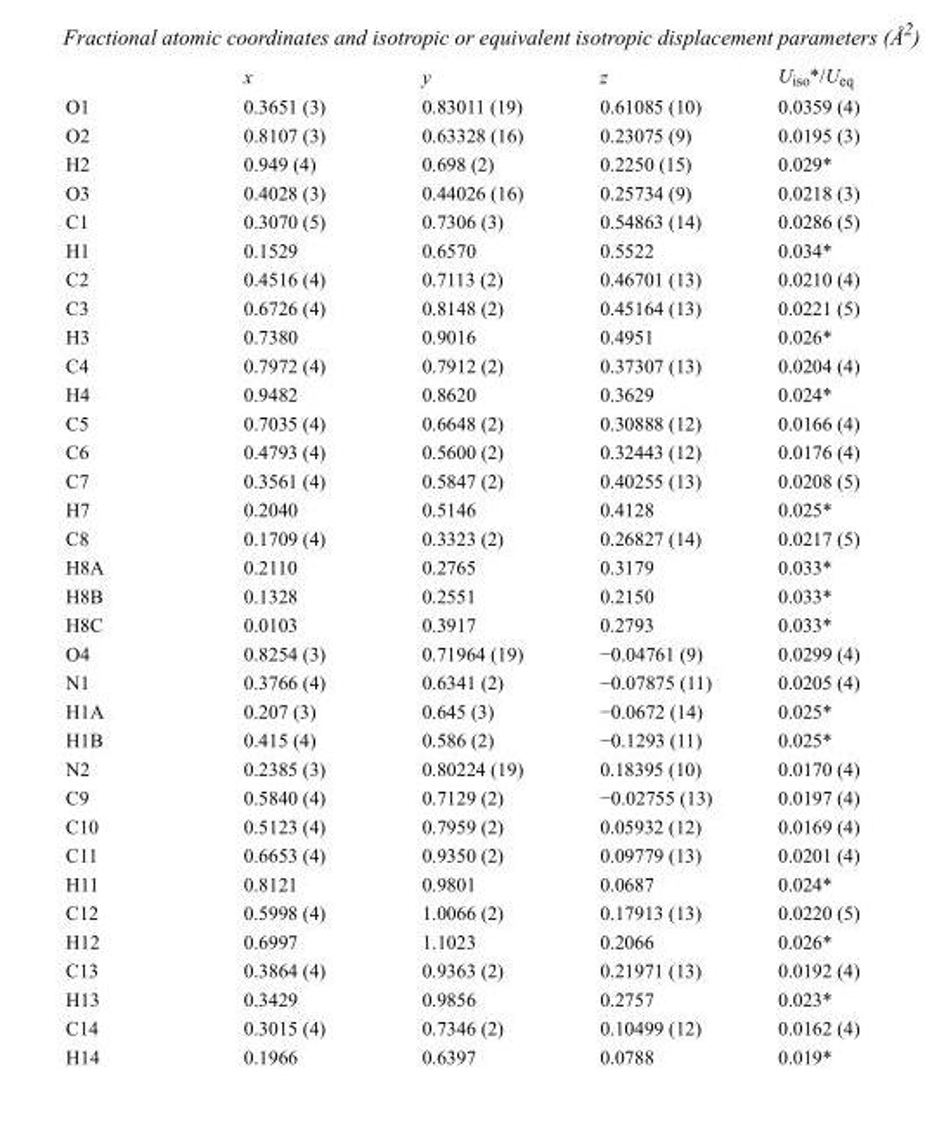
<table><thead><tr><td></td><td>x</td><td>y</td><td>z</td><td>U<sub>iso</sub>*/U<sub>eq</sub></td></tr></thead><tbody><tr><td>O1</td><td>0.3651 (3)</td><td>0.83011 (19)</td><td>0.61085 (10)</td><td>0.0359 (4)</td></tr><tr><td>O2</td><td>0.8107 (3)</td><td>0.63328 (16)</td><td>0.23075 (9)</td><td>0.0195 (3)</td></tr><tr><td>H2</td><td>0.949 (4)</td><td>0.698 (2)</td><td>0.2250 (15)</td><td>0.029*</td></tr><tr><td>O3</td><td>0.4028 (3)</td><td>0.44026 (16)</td><td>0.25734 (9)</td><td>0.0218 (3)</td></tr><tr><td>C1</td><td>0.3070 (5)</td><td>0.7306 (3)</td><td>0.54863 (14)</td><td>0.0286 (5)</td></tr><tr><td>H1</td><td>0.1529</td><td>0.6570</td><td>0.5522</td><td>0.034*</td></tr><tr><td>C2</td><td>0.4516 (4)</td><td>0.7113 (2)</td><td>0.46701 (13)</td><td>0.0210 (4)</td></tr><tr><td>C3</td><td>0.6726 (4)</td><td>0.8148 (2)</td><td>0.45164 (13)</td><td>0.0221 (5)</td></tr><tr><td>H3</td><td>0.7380</td><td>0.9016</td><td>0.4951</td><td>0.026*</td></tr><tr><td>C4</td><td>0.7972 (4)</td><td>0.7912 (2)</td><td>0.37307 (13)</td><td>0.0204 (4)</td></tr><tr><td>H4</td><td>0.9482</td><td>0.8620</td><td>0.3629</td><td>0.024*</td></tr><tr><td>C5</td><td>0.7035 (4)</td><td>0.6648 (2)</td><td>0.30888 (12)</td><td>0.0166 (4)</td></tr><tr><td>C6</td><td>0.4793 (4)</td><td>0.5600 (2)</td><td>0.32443 (12)</td><td>0.0176 (4)</td></tr><tr><td>C7</td><td>0.3561 (4)</td><td>0.5847 (2)</td><td>0.40255 (13)</td><td>0.0208 (5)</td></tr><tr><td>H7</td><td>0.2040</td><td>0.5146</td><td>0.4128</td><td>0.025*</td></tr><tr><td>C8</td><td>0.1709 (4)</td><td>0.3323 (2)</td><td>0.26827 (14)</td><td>0.0217 (5)</td></tr><tr><td>H8A</td><td>0.2110</td><td>0.2765</td><td>0.3179</td><td>0.033*</td></tr><tr><td>H8B</td><td>0.1328</td><td>0.2551</td><td>0.2150</td><td>0.033*</td></tr><tr><td>H8C</td><td>0.0103</td><td>0.3917</td><td>0.2793</td><td>0.033*</td></tr><tr><td>O4</td><td>0.8254 (3)</td><td>0.71964 (19)</td><td>−0.04761 (9)</td><td>0.0299 (4)</td></tr><tr><td>N1</td><td>0.3766 (4)</td><td>0.6341 (2)</td><td>−0.07875 (11)</td><td>0.0205 (4)</td></tr><tr><td>H1A</td><td>0.207 (3)</td><td>0.645 (3)</td><td>−0.0672 (14)</td><td>0.025*</td></tr><tr><td>H1B</td><td>0.415 (4)</td><td>0.586 (2)</td><td>−0.1293 (11)</td><td>0.025*</td></tr><tr><td>N2</td><td>0.2385 (3)</td><td>0.80224 (19)</td><td>0.18395 (10)</td><td>0.0170 (4)</td></tr><tr><td>C9</td><td>0.5840 (4)</td><td>0.7129 (2)</td><td>−0.02755 (13)</td><td>0.0197 (4)</td></tr><tr><td>C10</td><td>0.5123 (4)</td><td>0.7959 (2)</td><td>0.05932 (12)</td><td>0.0169 (4)</td></tr><tr><td>C11</td><td>0.6653 (4)</td><td>0.9350 (2)</td><td>0.09779 (13)</td><td>0.0201 (4)</td></tr><tr><td>H11</td><td>0.8121</td><td>0.9801</td><td>0.0687</td><td>0.024*</td></tr><tr><td>C12</td><td>0.5998 (4)</td><td>1.0066 (2)</td><td>0.17913 (13)</td><td>0.0220 (5)</td></tr><tr><td>H12</td><td>0.6997</td><td>1.1023</td><td>0.2066</td><td>0.026*</td></tr><tr><td>C13</td><td>0.3864 (4)</td><td>0.9363 (2)</td><td>0.21971 (13)</td><td>0.0192 (4)</td></tr><tr><td>H13</td><td>0.3429</td><td>0.9856</td><td>0.2757</td><td>0.023*</td></tr><tr><td>C14</td><td>0.3015 (4)</td><td>0.7346 (2)</td><td>0.10499 (12)</td><td>0.0162 (4)</td></tr><tr><td>H14</td><td>0.1966</td><td>0.6397</td><td>0.0788</td><td>0.019*</td></tr></tbody></table>